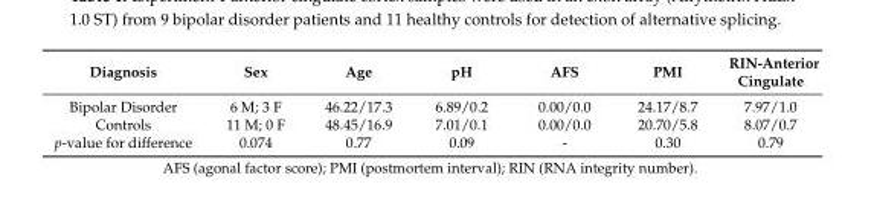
<table><thead><tr><td>Diagnosis</td><td>Sex</td><td>Age</td><td>pH</td><td>AFS</td><td>PMI</td><td>RIN-Anterior Cingulate</td></tr></thead><tbody><tr><td>Bipolar Disorder</td><td>6 M; 3 F</td><td>46.22/17.3</td><td>6.89/0.2</td><td>0.00/0.0</td><td>24.17/8.7</td><td>7.97/1.0</td></tr><tr><td>Controls</td><td>11 M; 0 F</td><td>48.45/16.9</td><td>7.01/0.1</td><td>0.00/0.0</td><td>20.70/5.8</td><td>8.07/0.7</td></tr><tr><td>p-value for difference</td><td>0.074</td><td>0.77</td><td>0.09</td><td>-</td><td>0.30</td><td>0.79</td></tr></tbody></table>